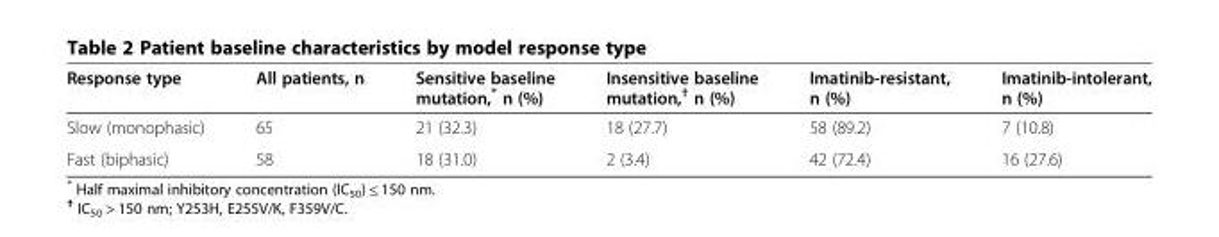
<table><thead><tr><td>Response type</td><td>All patients, n</td><td>Sensitive baseline mutation,* n (%)</td><td>Insensitive baseline mutation,<sup>†</sup> n (%)</td><td>Imatinib-resistant, n (%)</td><td>Imatinib-intolerant, n (%)</td></tr></thead><tbody><tr><td>Slow (monophasic)</td><td>65</td><td>21 (32.3)</td><td>18 (27.7)</td><td>58 (89.2)</td><td>7 (10.8)</td></tr><tr><td>Fast (biphasic)</td><td>58</td><td>18 (31.0)</td><td>2 (3.4)</td><td>42 (72.4)</td><td>16 (27.6)</td></tr></tbody></table>